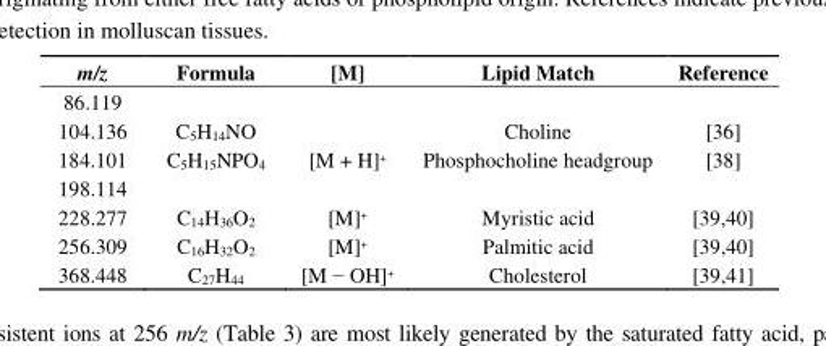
<table><thead><tr><td>m/z</td><td>Formula</td><td>[M]</td><td>Lipid Match</td><td>Reference</td></tr></thead><tbody><tr><td colspan="5">86.119</td></tr><tr><td>104.136</td><td>C<sub>5</sub>H<sub>14</sub>NO</td><td></td><td>Choline</td><td>[36]</td></tr><tr><td>184.101</td><td>C<sub>5</sub>H<sub>15</sub>NPO<sub>4</sub></td><td>[M + H]<sup>+</sup></td><td>Phosphocholine headgroup</td><td>[38]</td></tr><tr><td colspan="5">198.114</td></tr><tr><td>228.277</td><td>C<sub>14</sub>H<sub>36</sub>O<sub>2</sub></td><td>[M]<sup>+</sup></td><td>Myristic acid</td><td>[39,40]</td></tr><tr><td>256.309</td><td>C<sub>16</sub>H<sub>32</sub>O<sub>2</sub></td><td>[M]<sup>+</sup></td><td>Palmitic acid</td><td>[39,40]</td></tr><tr><td>368.448</td><td>C<sub>27</sub>H<sub>44</sub></td><td>[M − OH]<sup>+</sup></td><td>Cholesterol</td><td>[39,41]</td></tr></tbody></table>